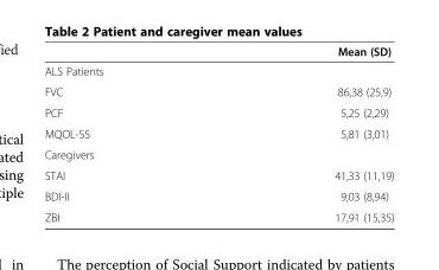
<table><thead><tr><td></td><td>Mean (SD)</td></tr></thead><tbody><tr><td colspan="2">ALS Patients</td></tr><tr><td>FVC</td><td>86,38 (25,9)</td></tr><tr><td>PCF</td><td>5,25 (2,29)</td></tr><tr><td>MQOL-SS</td><td>5,81 (3,01)</td></tr><tr><td colspan="2">Caregivers</td></tr><tr><td>STAI</td><td>41,33 (11,19)</td></tr><tr><td>BDI-II</td><td>9,03 (8,94)</td></tr><tr><td>ZBI</td><td>17,91 (15,35)</td></tr></tbody></table>